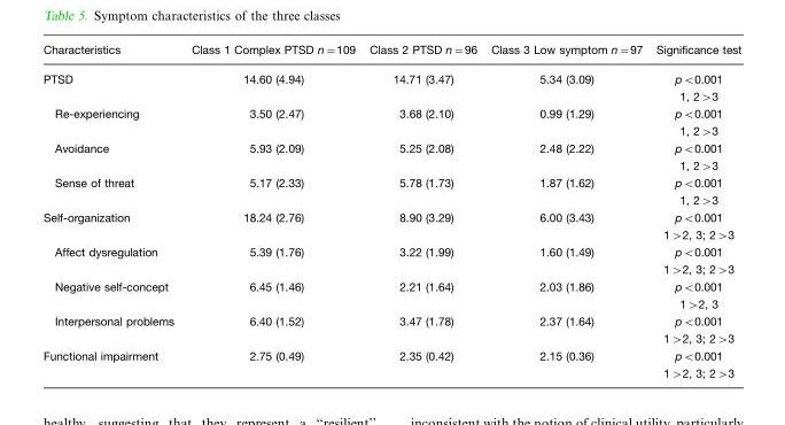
<table><thead><tr><td>Characteristics</td><td>Class 1 Complex PTSD n=109</td><td>Class 2 PTSD n=96</td><td>Class 3 Low symptom n=97</td><td>Significance test</td></tr></thead><tbody><tr><td>PTSD</td><td>14.60 (4.94)</td><td>14.71 (3.47)</td><td>5.34 (3.09)</td><td>p&lt;0.001 1, 2&gt;3</td></tr><tr><td>Re-experiencing</td><td>3.50 (2.47)</td><td>3.68 (2.10)</td><td>0.99 (1.29)</td><td>p&lt;0.001 1, 2&gt;3</td></tr><tr><td>Avoidance</td><td>5.93 (2.09)</td><td>5.25 (2.08)</td><td>2.48 (2.22)</td><td>p&lt;0.001 1, 2&gt;3</td></tr><tr><td>Sense of threat</td><td>5.17 (2.33)</td><td>5.78 (1.73)</td><td>1.87 (1.62)</td><td>p&lt;0.001 1, 2&gt;3</td></tr><tr><td>Self-organization</td><td>18.24 (2.76)</td><td>8.90 (3.29)</td><td>6.00 (3.43)</td><td>p&lt;0.001 1&gt;2, 3; 2&gt;3</td></tr><tr><td>Affect dysregulation</td><td>5.39 (1.76)</td><td>3.22 (1.99)</td><td>1.60 (1.49)</td><td>p&lt;0.001 1&gt;2, 3; 2&gt;3</td></tr><tr><td>Negative self-concept</td><td>6.45 (1.46)</td><td>2.21 (1.64)</td><td>2.03 (1.86)</td><td>p&lt;0.001 1&gt;2, 3</td></tr><tr><td>Interpersonal problems</td><td>6.40 (1.52)</td><td>3.47 (1.78)</td><td>2.37 (1.64)</td><td>p&lt;0.001 1&gt;2, 3; 2&gt;3</td></tr><tr><td>Functional impairment</td><td>2.75 (0.49)</td><td>2.35 (0.42)</td><td>2.15 (0.36)</td><td>p&lt;0.001 1&gt;2, 3; 2&gt;3</td></tr></tbody></table>